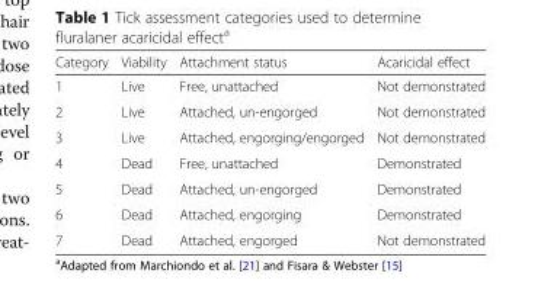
<table><thead><tr><td>Category</td><td>Viability</td><td>Attachment status</td><td>Acaricidal effect</td></tr></thead><tbody><tr><td>1</td><td>Live</td><td>Free, unattached</td><td>Not demonstrated</td></tr><tr><td>2</td><td>Live</td><td>Attached, un-engorged</td><td>Not demonstrated</td></tr><tr><td>3</td><td>Live</td><td>Attached, engorging/engorged</td><td>Not demonstrated</td></tr><tr><td>4</td><td>Dead</td><td>Free, unattached</td><td>Demonstrated</td></tr><tr><td>5</td><td>Dead</td><td>Attached, un-engorged</td><td>Demonstrated</td></tr><tr><td>6</td><td>Dead</td><td>Attached, engorging</td><td>Demonstrated</td></tr><tr><td>7</td><td>Dead</td><td>Attached, engorged</td><td>Not demonstrated</td></tr></tbody></table>